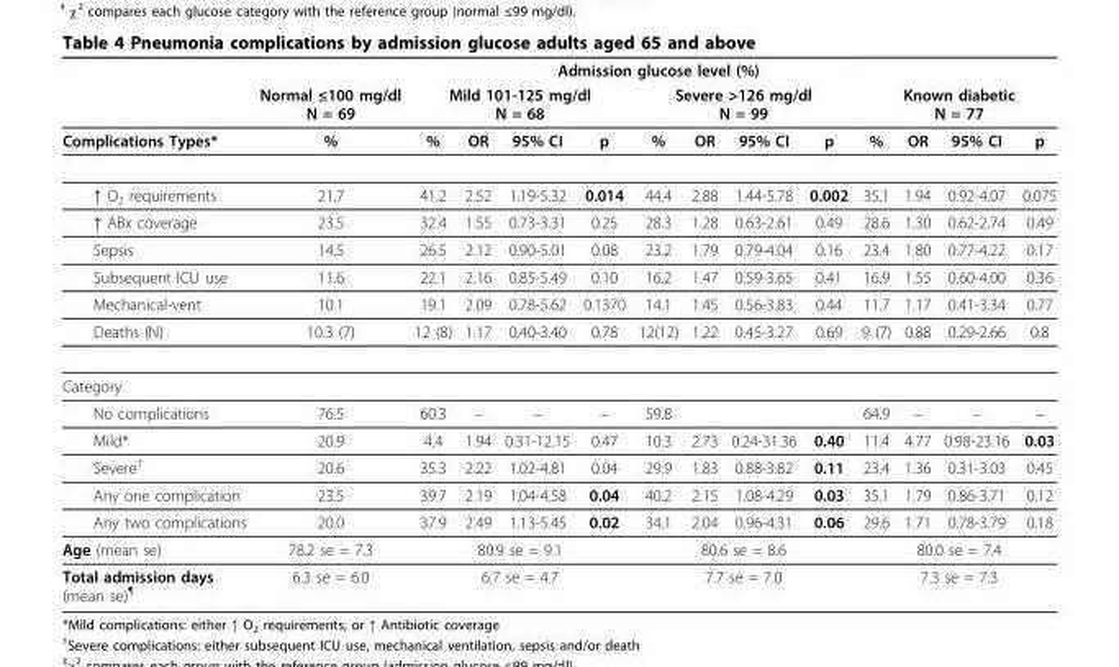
<table><thead><tr><td rowspan="3">Complications Types*</td><td colspan="13">Admission glucose level (%)</td></tr><tr><td rowspan="2">Normal ≤100 mg/dl N = 69 %</td><td colspan="4">Mild 101-125 mg/dl N = 68</td><td colspan="4">Severe &gt;126 mg/dl N = 99</td><td colspan="4">Known diabetic N = 77</td></tr><tr><td>%</td><td>OR</td><td>95% CI</td><td>p</td><td>%</td><td>OR</td><td>95% CI</td><td>p</td><td>%</td><td>OR</td><td>95% CI</td><td>p</td></tr></thead><tbody><tr><td>↑ O2 requirements</td><td>21.7</td><td>41.2</td><td>2.52</td><td>1.19-5.32</td><td>0.014</td><td>44.4</td><td>2.88</td><td>1.44-5.78</td><td>0.002</td><td>35.1</td><td>1.94</td><td>0.92-4.07</td><td>0.075</td></tr><tr><td>↑ ABx coverage</td><td>23.5</td><td>32.4</td><td>1.55</td><td>0.73-3.31</td><td>0.25</td><td>28.3</td><td>1.28</td><td>0.63-2.61</td><td>0.49</td><td>28.6</td><td>1.30</td><td>0.62-2.74</td><td>0.49</td></tr><tr><td>Sepsis</td><td>14.5</td><td>26.5</td><td>2.12</td><td>0.90-5.01</td><td>0.08</td><td>23.2</td><td>1.79</td><td>0.79-4.04</td><td>0.16</td><td>23.4</td><td>1.80</td><td>0.77-4.22</td><td>0.17</td></tr><tr><td>Subsequent ICU use</td><td>11.6</td><td>22.1</td><td>2.16</td><td>0.85-5.49</td><td>0.10</td><td>16.2</td><td>1.47</td><td>0.59-3.65</td><td>0.41</td><td>16.9</td><td>1.55</td><td>0.60-4.00</td><td>0.36</td></tr><tr><td>Mechanical-vent</td><td>10.1</td><td>19.1</td><td>2.09</td><td>0.78-5.62</td><td>0.1370</td><td>14.1</td><td>1.45</td><td>0.56-3.83</td><td>0.44</td><td>11.7</td><td>1.17</td><td>0.41-3.34</td><td>0.77</td></tr><tr><td>Deaths (N)</td><td>10.3 (7)</td><td>12 (8)</td><td>1.17</td><td>0.40-3.40</td><td>0.78</td><td>12(12)</td><td>1.22</td><td>0.45-3.27</td><td>0.69</td><td>9 (7)</td><td>0.88</td><td>0.29-2.66</td><td>0.8</td></tr><tr><td colspan="14">Category</td></tr><tr><td>No complications</td><td>76.5</td><td>60.3</td><td>–</td><td>–</td><td>–</td><td>59.8</td><td></td><td></td><td></td><td>64.9</td><td>–</td><td>–</td><td>–</td></tr><tr><td>Mild*</td><td>20.9</td><td>4.4</td><td>1.94</td><td>0.31-12.15</td><td>0.47</td><td>10.3</td><td>2.73</td><td>0.24-31.36</td><td>0.40</td><td>11.4</td><td>4.77</td><td>0.98-23.16</td><td>0.03</td></tr><tr><td>Severe†</td><td>20.6</td><td>35.3</td><td>2.22</td><td>1.02-4.81</td><td>0.04</td><td>29.9</td><td>1.83</td><td>0.88-3.82</td><td>0.11</td><td>23.4</td><td>1.36</td><td>0.31-3.03</td><td>0.45</td></tr><tr><td>Any one complication</td><td>23.5</td><td>39.7</td><td>2.19</td><td>1.04-4.58</td><td>0.04</td><td>40.2</td><td>2.15</td><td>1.08-4.29</td><td>0.03</td><td>35.1</td><td>1.79</td><td>0.86-3.71</td><td>0.12</td></tr><tr><td>Any two complications</td><td>20.0</td><td>37.9</td><td>2.49</td><td>1.13-5.45</td><td>0.02</td><td>34.1</td><td>2.04</td><td>0.96-4.31</td><td>0.06</td><td>29.6</td><td>1.71</td><td>0.78-3.79</td><td>0.18</td></tr><tr><td>Age (mean se)</td><td>78.2 se = 7.3</td><td colspan="4">80.9 se = 9.1</td><td colspan="4">80.6 se = 8.6</td><td colspan="4">80.0 se = 7.4</td></tr><tr><td>Total admission days (mean se)¶</td><td>6.3 se = 6.0</td><td colspan="4">6.7 se = 4.7</td><td colspan="4">7.7 se = 7.0</td><td colspan="4">7.3 se = 7.3</td></tr></tbody></table>